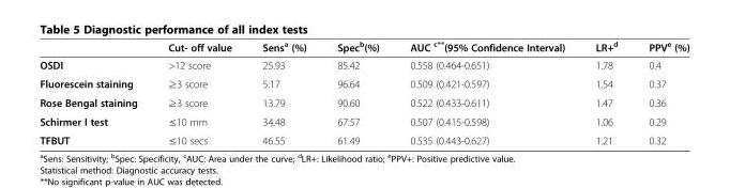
<table><thead><tr><td></td><td>Cut- off value</td><td>Sens<sup>a</sup> (%)</td><td>Spec<sup>b</sup>(%)</td><td>AUC <sup>c**</sup>(95% Confidence Interval)</td><td>LR+<sup>d</sup></td><td>PPV<sup>e</sup> (%)</td></tr></thead><tbody><tr><td>OSDI</td><td>&gt;12 score</td><td>25.93</td><td>85.42</td><td>0.558 (0.464-0.651)</td><td>1.78</td><td>0.4</td></tr><tr><td>Fluorescein staining</td><td>≥3 score</td><td>5.17</td><td>96.64</td><td>0.509 (0.421-0.597)</td><td>1.54</td><td>0.37</td></tr><tr><td>Rose Bengal staining</td><td>≥3 score</td><td>13.79</td><td>90.60</td><td>0.522 (0.433-0.611)</td><td>1.47</td><td>0.36</td></tr><tr><td>Schirmer I test</td><td>≤10 mm</td><td>34.48</td><td>67.57</td><td>0.507 (0.415-0.598)</td><td>1.06</td><td>0.29</td></tr><tr><td>TFBUT</td><td>≤10 secs</td><td>46.55</td><td>61.49</td><td>0.535 (0.443-0.627)</td><td>1.21</td><td>0.32</td></tr></tbody></table>